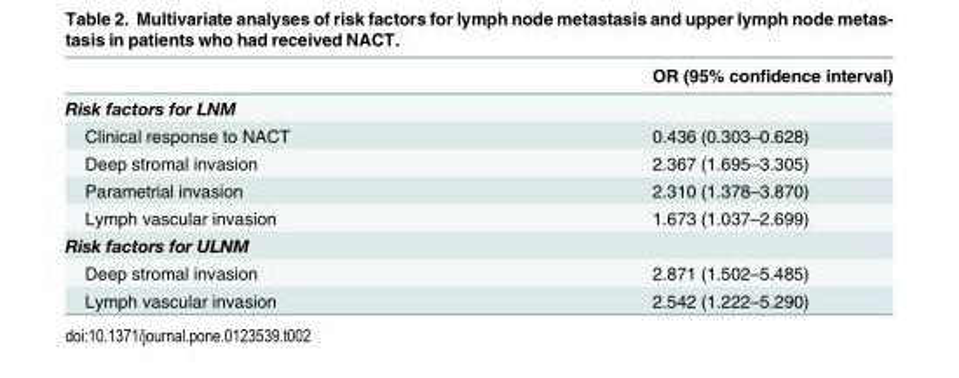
<table><thead><tr><td></td><td>OR (95% confidence interval)</td></tr></thead><tbody><tr><td colspan="2">Risk factors for LNM</td></tr><tr><td>Clinical response to NACT</td><td>0.436 (0.303–0.628)</td></tr><tr><td>Deep stromal invasion</td><td>2.367 (1.695–3.305)</td></tr><tr><td>Parametrial invasion</td><td>2.310 (1.378–3.870)</td></tr><tr><td>Lymph vascular invasion</td><td>1.673 (1.037–2.699)</td></tr><tr><td colspan="2">Risk factors for ULNM</td></tr><tr><td>Deep stromal invasion</td><td>2.871 (1.502–5.485)</td></tr><tr><td>Lymph vascular invasion</td><td>2.542 (1.222–5.290)</td></tr></tbody></table>